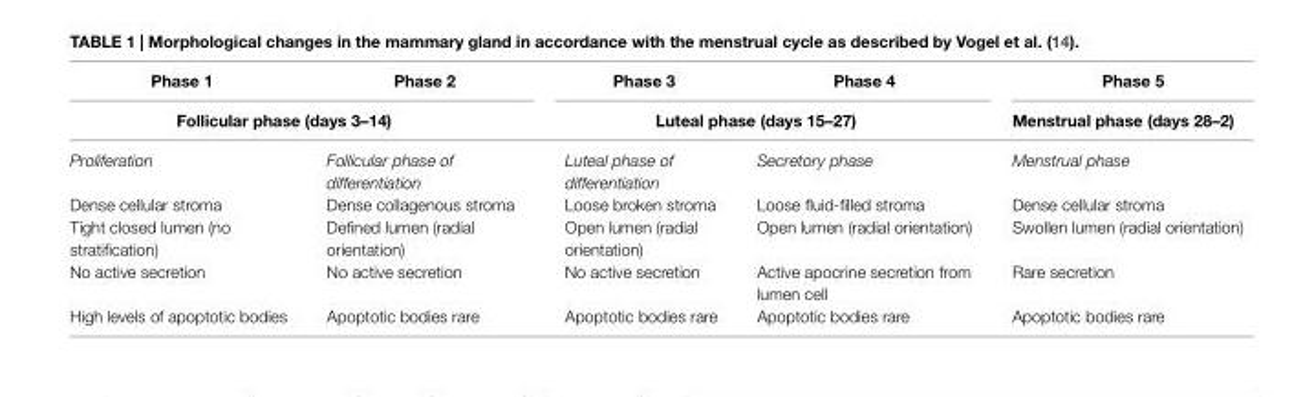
<table><thead><tr><td>Phase 1</td><td>Phase 2</td><td>Phase 3</td><td>Phase 4</td><td rowspan="2">Phase 5 Menstrual phase (days 28–2)</td></tr><tr><td colspan="2">Follicular phase (days 3–14)</td><td colspan="2">Luteal phase (days 15–27)</td></tr></thead><tbody><tr><td>Proliferation</td><td>Follicular phase of differentiation</td><td>Luteal phase of differentiation</td><td>Secretory phase</td><td>Menstrual phase</td></tr><tr><td>Dense cellular stroma</td><td>Dense collagenous stroma</td><td>Loose broken stroma</td><td>Loose fluid-filled stroma</td><td>Dense cellular stroma</td></tr><tr><td>Tight closed lumen (no stratification)</td><td>Defined lumen (radial orientation)</td><td>Open lumen (radial orientation)</td><td>Open lumen (radial orientation)</td><td>Swollen lumen (radial orientation)</td></tr><tr><td>No active secretion</td><td>No active secretion</td><td>No active secretion</td><td>Active apocrine secretion from lumen cell</td><td>Rare secretion</td></tr><tr><td>High levels of apoptotic bodies</td><td>Apoptotic bodies rare</td><td>Apoptotic bodies rare</td><td>Apoptotic bodies rare</td><td>Apoptotic bodies rare</td></tr></tbody></table>